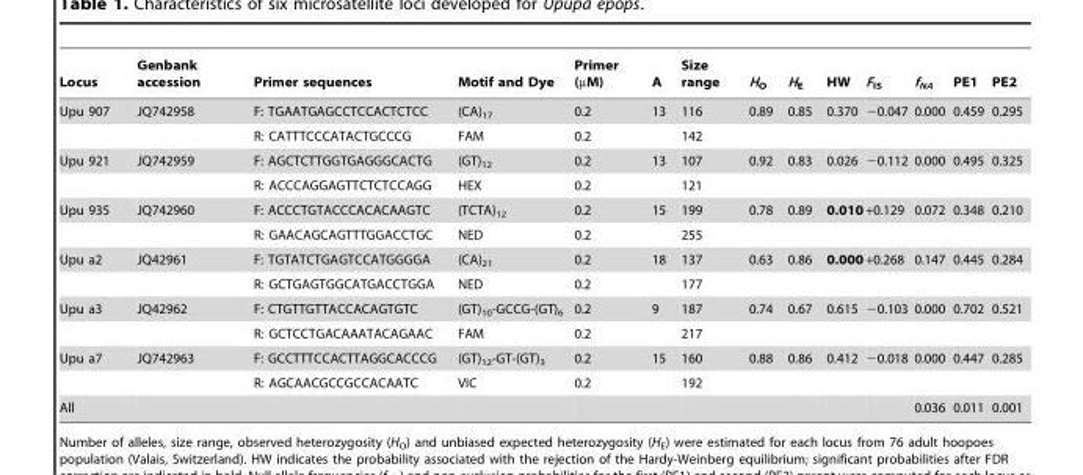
<table><thead><tr><td>Locus</td><td>Genbank accession</td><td>Primer sequences</td><td>Motif and Dye</td><td>Primer (µM)</td><td>A</td><td>Size range</td><td>H<sub>O</sub></td><td>H<sub>E</sub></td><td>HW</td><td>F<sub>IS</sub></td><td>f<sub>NA</sub></td><td>PE1</td><td>PE2</td></tr></thead><tbody><tr><td rowspan="2">Upu 907</td><td>JQ742958</td><td>F: TGAATGAGCCTCCACTCTCC</td><td>(CA)<sub>17</sub></td><td>0.2</td><td>13</td><td>116</td><td>0.89</td><td>0.85</td><td>0.370</td><td>−0.047</td><td>0.000</td><td>0.459</td><td>0.295</td></tr><tr><td></td><td>R: CATTTCCCATACTGCCCG</td><td>FAM</td><td>0.2</td><td></td><td>142</td><td></td><td></td><td></td><td></td><td></td><td></td><td></td></tr><tr><td rowspan="2">Upu 921</td><td>JQ742959</td><td>F: AGCTCTTGGTGAGGGCACTG</td><td>(GT)<sub>12</sub></td><td>0.2</td><td>13</td><td>107</td><td>0.92</td><td>0.83</td><td>0.026</td><td>−0.112</td><td>0.000</td><td>0.495</td><td>0.325</td></tr><tr><td></td><td>R: ACCCAGGAGTTCTCTCCAGG</td><td>HEX</td><td>0.2</td><td></td><td>121</td><td></td><td></td><td></td><td></td><td></td><td></td><td></td></tr><tr><td rowspan="2">Upu 935</td><td>JQ742960</td><td>F: ACCCTGTACCCACACAAGTC</td><td>(TCTA)<sub>12</sub></td><td>0.2</td><td>15</td><td>199</td><td>0.78</td><td>0.89</td><td>0.010</td><td>+0.129</td><td>0.072</td><td>0.348</td><td>0.210</td></tr><tr><td></td><td>R: GAACAGCAGTTTGGACCTGC</td><td>NED</td><td>0.2</td><td></td><td>255</td><td></td><td></td><td></td><td></td><td></td><td></td><td></td></tr><tr><td rowspan="2">Upu a2</td><td>JQ42961</td><td>F: TGTATCTGAGTCCATGGGGA</td><td>(CA)<sub>21</sub></td><td>0.2</td><td>18</td><td>137</td><td>0.63</td><td>0.86</td><td>0.000</td><td>+0.268</td><td>0.147</td><td>0.445</td><td>0.284</td></tr><tr><td></td><td>R: GCTGAGTGGCATGACCTGGA</td><td>NED</td><td>0.2</td><td></td><td>177</td><td></td><td></td><td></td><td></td><td></td><td></td><td></td></tr><tr><td rowspan="2">Upu a3</td><td>JQ42962</td><td>F: CTGTTGTTACCACAGTGTC</td><td>(GT)<sub>10</sub>-GCCG-(GT)<sub>6</sub></td><td>0.2</td><td>9</td><td>187</td><td>0.74</td><td>0.67</td><td>0.615</td><td>−0.103</td><td>0.000</td><td>0.702</td><td>0.521</td></tr><tr><td></td><td>R: GCTCCTGACAAATACAGAAC</td><td>FAM</td><td>0.2</td><td></td><td>217</td><td></td><td></td><td></td><td></td><td></td><td></td><td></td></tr><tr><td rowspan="2">Upu a7</td><td>JQ742963</td><td>F: GCCTTTCCACTTAGGCACCCG</td><td>(GT)<sub>12</sub>-GT-(GT)<sub>3</sub></td><td>0.2</td><td>15</td><td>160</td><td>0.88</td><td>0.86</td><td>0.412</td><td>−0.018</td><td>0.000</td><td>0.447</td><td>0.285</td></tr><tr><td></td><td>R: AGCAACGCCGCCACAATC</td><td>VIC</td><td>0.2</td><td></td><td>192</td><td></td><td></td><td></td><td></td><td></td><td></td><td></td></tr><tr><td>All</td><td></td><td></td><td></td><td></td><td></td><td></td><td></td><td></td><td></td><td></td><td>0.036</td><td>0.011</td><td>0.001</td></tr></tbody></table>